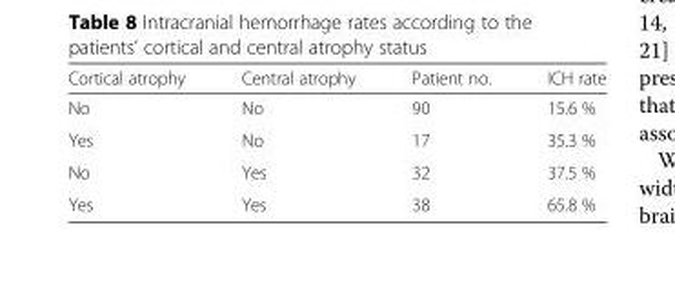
<table><thead><tr><td>Cortical atrophy</td><td>Central atrophy</td><td>Patient no.</td><td>ICH rate</td></tr></thead><tbody><tr><td>No</td><td>No</td><td>90</td><td>15.6 %</td></tr><tr><td>Yes</td><td>No</td><td>17</td><td>35.3 %</td></tr><tr><td>No</td><td>Yes</td><td>32</td><td>37.5 %</td></tr><tr><td>Yes</td><td>Yes</td><td>38</td><td>65.8 %</td></tr></tbody></table>